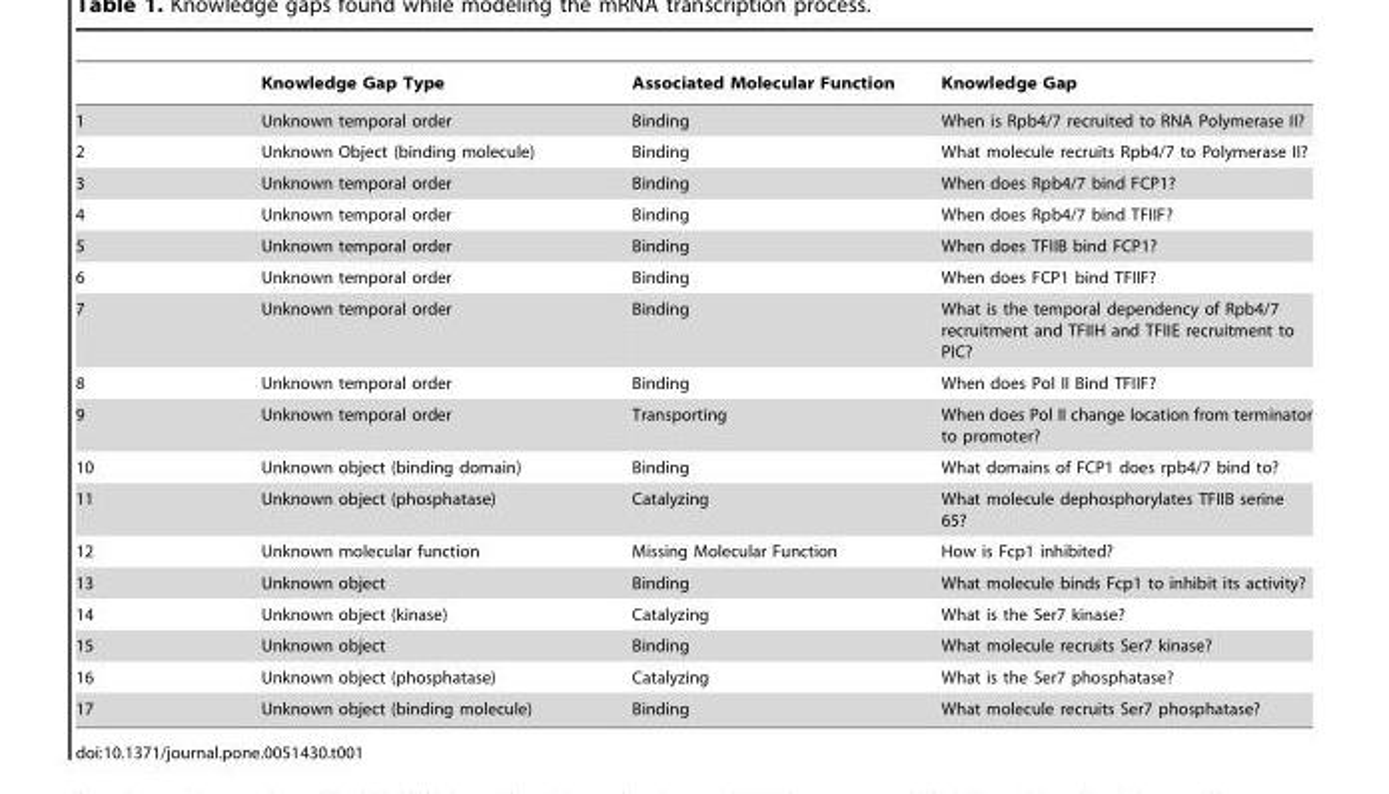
<table><thead><tr><td></td><td>Knowledge Gap Type</td><td>Associated Molecular Function</td><td>Knowledge Gap</td></tr></thead><tbody><tr><td>1</td><td>Unknown temporal order</td><td>Binding</td><td>When is Rpb4/7 recruited to RNA Polymerase II?</td></tr><tr><td>2</td><td>Unknown Object (binding molecule)</td><td>Binding</td><td>What molecule recruits Rpb4/7 to Polymerase II?</td></tr><tr><td>3</td><td>Unknown temporal order</td><td>Binding</td><td>When does Rpb4/7 bind FCP1?</td></tr><tr><td>4</td><td>Unknown temporal order</td><td>Binding</td><td>When does Rpb4/7 bind TFIIF?</td></tr><tr><td>5</td><td>Unknown temporal order</td><td>Binding</td><td>When does TFIIB bind FCP1?</td></tr><tr><td>6</td><td>Unknown temporal order</td><td>Binding</td><td>When does FCP1 bind TFIIF?</td></tr><tr><td>7</td><td>Unknown temporal order</td><td>Binding</td><td>What is the temporal dependency of Rpb4/7 recruitment and TFIIH and TFIIE recruitment to PIC?</td></tr><tr><td>8</td><td>Unknown temporal order</td><td>Binding</td><td>When does Pol II Bind TFIIF?</td></tr><tr><td>9</td><td>Unknown temporal order</td><td>Transporting</td><td>When does Pol II change location from terminator to promoter?</td></tr><tr><td>10</td><td>Unknown object (binding domain)</td><td>Binding</td><td>What domains of FCP1 does rpb4/7 bind to?</td></tr><tr><td>11</td><td>Unknown object (phosphatase)</td><td>Catalyzing</td><td>What molecule dephosphorylates TFIIB serine 65?</td></tr><tr><td>12</td><td>Unknown molecular function</td><td>Missing Molecular Function</td><td>How is Fcp1 inhibited?</td></tr><tr><td>13</td><td>Unknown object</td><td>Binding</td><td>What molecule binds Fcp1 to inhibit its activity?</td></tr><tr><td>14</td><td>Unknown object (kinase)</td><td>Catalyzing</td><td>What is the Ser7 kinase?</td></tr><tr><td>15</td><td>Unknown object</td><td>Binding</td><td>What molecule recruits Ser7 kinase?</td></tr><tr><td>16</td><td>Unknown object (phosphatase)</td><td>Catalyzing</td><td>What is the Ser7 phosphatase?</td></tr><tr><td>17</td><td>Unknown object (binding molecule)</td><td>Binding</td><td>What molecule recruits Ser7 phosphatase?</td></tr></tbody></table>